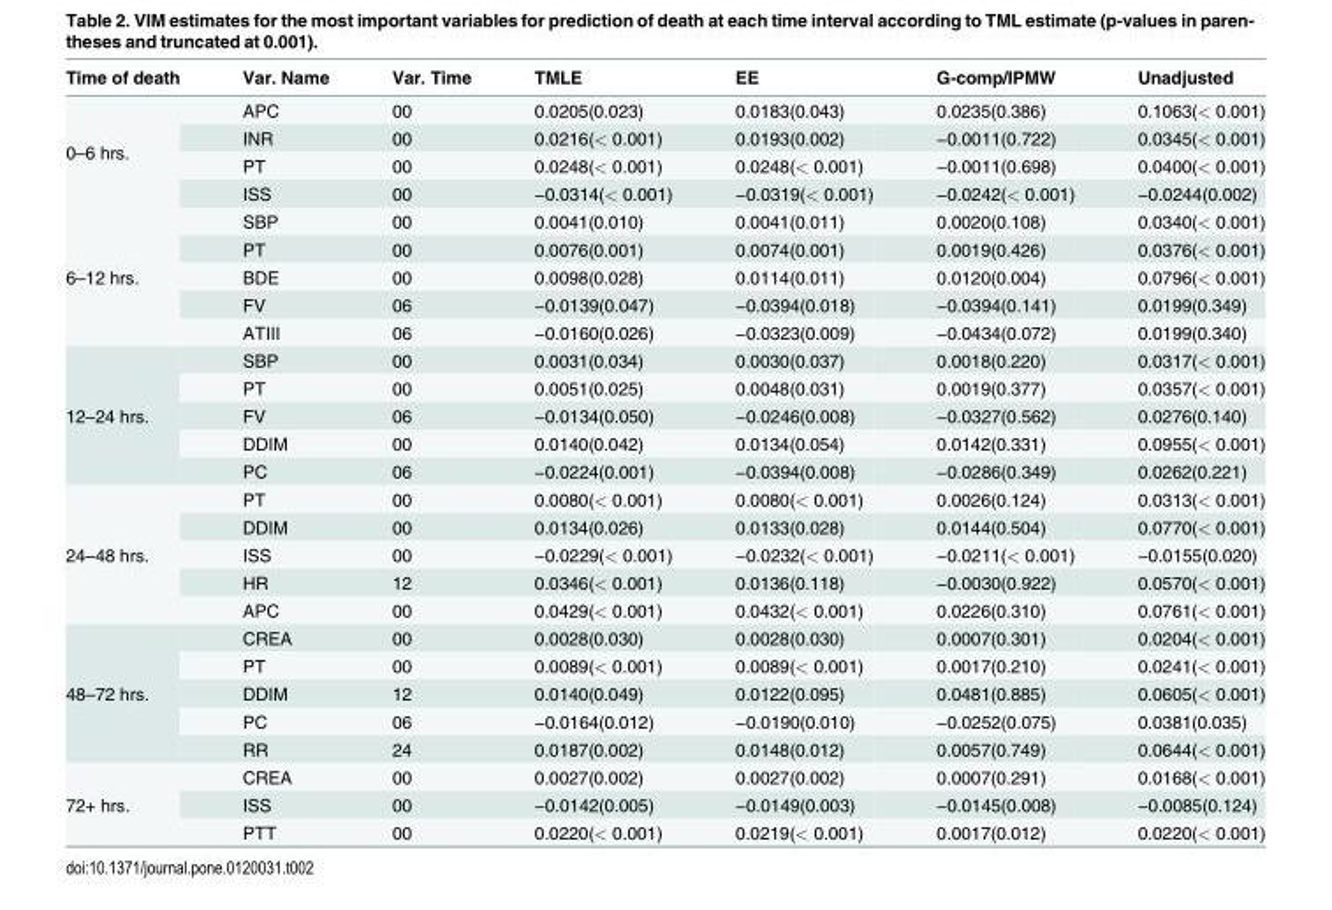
<table><thead><tr><td>Time of death</td><td>Var. Name</td><td>Var. Time</td><td>TMLE</td><td>EE</td><td>G-comp/IPMW</td><td>Unadjusted</td></tr></thead><tbody><tr><td rowspan="4">0–6 hrs.</td><td>APC</td><td>00</td><td>0.0205(0.023)</td><td>0.0183(0.043)</td><td>0.0235(0.386)</td><td>0.1063(&lt; 0.001)</td></tr><tr><td>INR</td><td>00</td><td>0.0216(&lt; 0.001)</td><td>0.0193(0.002)</td><td>−0.0011(0.722)</td><td>0.0345(&lt; 0.001)</td></tr><tr><td>PT</td><td>00</td><td>0.0248(&lt; 0.001)</td><td>0.0248(&lt; 0.001)</td><td>−0.0011(0.698)</td><td>0.0400(&lt; 0.001)</td></tr><tr><td>ISS</td><td>00</td><td>−0.0314(&lt; 0.001)</td><td>−0.0319(&lt; 0.001)</td><td>−0.0242(&lt; 0.001)</td><td>−0.0244(0.002)</td></tr><tr><td rowspan="5">6–12 hrs.</td><td>SBP</td><td>00</td><td>0.0041(0.010)</td><td>0.0041(0.011)</td><td>0.0020(0.108)</td><td>0.0340(&lt; 0.001)</td></tr><tr><td>PT</td><td>00</td><td>0.0076(0.001)</td><td>0.0074(0.001)</td><td>0.0019(0.426)</td><td>0.0376(&lt; 0.001)</td></tr><tr><td>BDE</td><td>00</td><td>0.0098(0.028)</td><td>0.0114(0.011)</td><td>0.0120(0.004)</td><td>0.0796(&lt; 0.001)</td></tr><tr><td>FV</td><td>06</td><td>−0.0139(0.047)</td><td>−0.0394(0.018)</td><td>−0.0394(0.141)</td><td>0.0199(0.349)</td></tr><tr><td>ATIII</td><td>06</td><td>−0.0160(0.026)</td><td>−0.0323(0.009)</td><td>−0.0434(0.072)</td><td>0.0199(0.340)</td></tr><tr><td rowspan="5">12–24 hrs.</td><td>SBP</td><td>00</td><td>0.0031(0.034)</td><td>0.0030(0.037)</td><td>0.0018(0.220)</td><td>0.0317(&lt; 0.001)</td></tr><tr><td>PT</td><td>00</td><td>0.0051(0.025)</td><td>0.0048(0.031)</td><td>0.0019(0.377)</td><td>0.0357(&lt; 0.001)</td></tr><tr><td>FV</td><td>06</td><td>−0.0134(0.050)</td><td>−0.0246(0.008)</td><td>−0.0327(0.562)</td><td>0.0276(0.140)</td></tr><tr><td>DDIM</td><td>00</td><td>0.0140(0.042)</td><td>0.0134(0.054)</td><td>0.0142(0.331)</td><td>0.0955(&lt; 0.001)</td></tr><tr><td>PC</td><td>06</td><td>−0.0224(0.001)</td><td>−0.0394(0.008)</td><td>−0.0286(0.349)</td><td>0.0262(0.221)</td></tr><tr><td rowspan="5">24–48 hrs.</td><td>PT</td><td>00</td><td>0.0080(&lt; 0.001)</td><td>0.0080(&lt; 0.001)</td><td>0.0026(0.124)</td><td>0.0313(&lt; 0.001)</td></tr><tr><td>DDIM</td><td>00</td><td>0.0134(0.026)</td><td>0.0133(0.028)</td><td>0.0144(0.504)</td><td>0.0770(&lt; 0.001)</td></tr><tr><td>ISS</td><td>00</td><td>−0.0229(&lt; 0.001)</td><td>−0.0232(&lt; 0.001)</td><td>−0.0211(&lt; 0.001)</td><td>−0.0155(0.020)</td></tr><tr><td>HR</td><td>12</td><td>0.0346(&lt; 0.001)</td><td>0.0136(0.118)</td><td>−0.0030(0.922)</td><td>0.0570(&lt; 0.001)</td></tr><tr><td>APC</td><td>00</td><td>0.0429(&lt; 0.001)</td><td>0.0432(&lt; 0.001)</td><td>0.0226(0.310)</td><td>0.0761(&lt; 0.001)</td></tr><tr><td rowspan="5">48–72 hrs.</td><td>CREA</td><td>00</td><td>0.0028(0.030)</td><td>0.0028(0.030)</td><td>0.0007(0.301)</td><td>0.0204(&lt; 0.001)</td></tr><tr><td>PT</td><td>00</td><td>0.0089(&lt; 0.001)</td><td>0.0089(&lt; 0.001)</td><td>0.0017(0.210)</td><td>0.0241(&lt; 0.001)</td></tr><tr><td>DDIM</td><td>12</td><td>0.0140(0.049)</td><td>0.0122(0.095)</td><td>0.0481(0.885)</td><td>0.0605(&lt; 0.001)</td></tr><tr><td>PC</td><td>06</td><td>−0.0164(0.012)</td><td>−0.0190(0.010)</td><td>−0.0252(0.075)</td><td>0.0381(0.035)</td></tr><tr><td>RR</td><td>24</td><td>0.0187(0.002)</td><td>0.0148(0.012)</td><td>0.0057(0.749)</td><td>0.0644(&lt; 0.001)</td></tr><tr><td rowspan="3">72+ hrs.</td><td>CREA</td><td>00</td><td>0.0027(0.002)</td><td>0.0027(0.002)</td><td>0.0007(0.291)</td><td>0.0168(&lt; 0.001)</td></tr><tr><td>ISS</td><td>00</td><td>−0.0142(0.005)</td><td>−0.0149(0.003)</td><td>−0.0145(0.008)</td><td>−0.0085(0.124)</td></tr><tr><td>PTT</td><td>00</td><td>0.0220(&lt; 0.001)</td><td>0.0219(&lt; 0.001)</td><td>0.0017(0.012)</td><td>0.0220(&lt; 0.001)</td></tr></tbody></table>